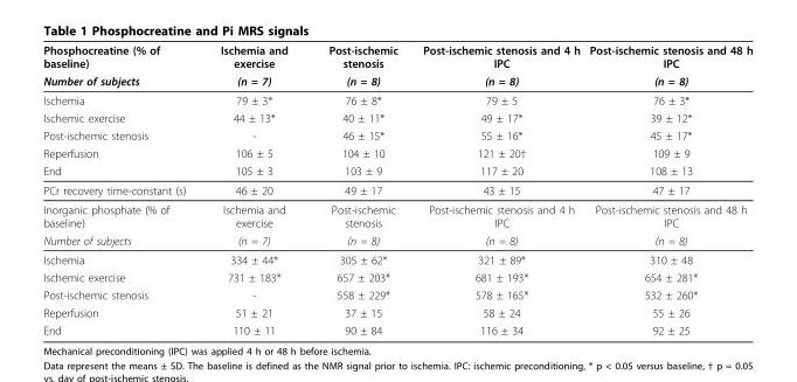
<table><thead><tr><td rowspan="2">Phosphocreatine (% of baseline) Number of subjects</td><td rowspan="2">Ischemia and exercise (n = 7)</td><td rowspan="2">Post-ischemic stenosis (n = 8)</td><td rowspan="2">Post-ischemic stenosis and 4 h IPC (n = 8)</td><td rowspan="2">Post-ischemic stenosis and 48 h IPC (n = 8)</td></tr><tr></tr></thead><tbody><tr><td>Ischemia</td><td>79 ± 3*</td><td>76 ± 8*</td><td>79 ± 5</td><td>76 ± 3*</td></tr><tr><td>Ischemic exercise</td><td>44 ± 13*</td><td>40 ± 11*</td><td>49 ± 17*</td><td>39 ± 12*</td></tr><tr><td>Post-ischemic stenosis</td><td>-</td><td>46 ± 15*</td><td>55 ± 16*</td><td>45 ± 17*</td></tr><tr><td>Reperfusion</td><td>106 ± 5</td><td>104 ± 10</td><td>121 ± 20†</td><td>109 ± 9</td></tr><tr><td>End</td><td>105 ± 3</td><td>103 ± 9</td><td>117 ± 20</td><td>108 ± 13</td></tr><tr><td>PCr recovery time-constant (s)</td><td>46 ± 20</td><td>49 ± 17</td><td>43 ± 15</td><td>47 ± 17</td></tr><tr><td>Inorganic phosphate (% of baseline)</td><td>Ischemia and exercise</td><td>Post-ischemic stenosis</td><td>Post-ischemic stenosis and 4 h IPC</td><td>Post-ischemic stenosis and 48 h IPC</td></tr><tr><td>Number of subjects</td><td>(n = 7)</td><td>(n = 8)</td><td>(n = 8)</td><td>(n = 8)</td></tr><tr><td>Ischemia</td><td>334 ± 44*</td><td>305 ± 62*</td><td>321 ± 89*</td><td>310 ± 48</td></tr><tr><td>Ischemic exercise</td><td>731 ± 183*</td><td>657 ± 203*</td><td>681 ± 193*</td><td>654 ± 281*</td></tr><tr><td>Post-ischemic stenosis</td><td>-</td><td>558 ± 229*</td><td>578 ± 165*</td><td>532 ± 260*</td></tr><tr><td>Reperfusion</td><td>51 ± 21</td><td>37 ± 15</td><td>58 ± 24</td><td>55 ± 26</td></tr><tr><td>End</td><td>110 ± 11</td><td>90 ± 84</td><td>116 ± 34</td><td>92 ± 25</td></tr></tbody></table>